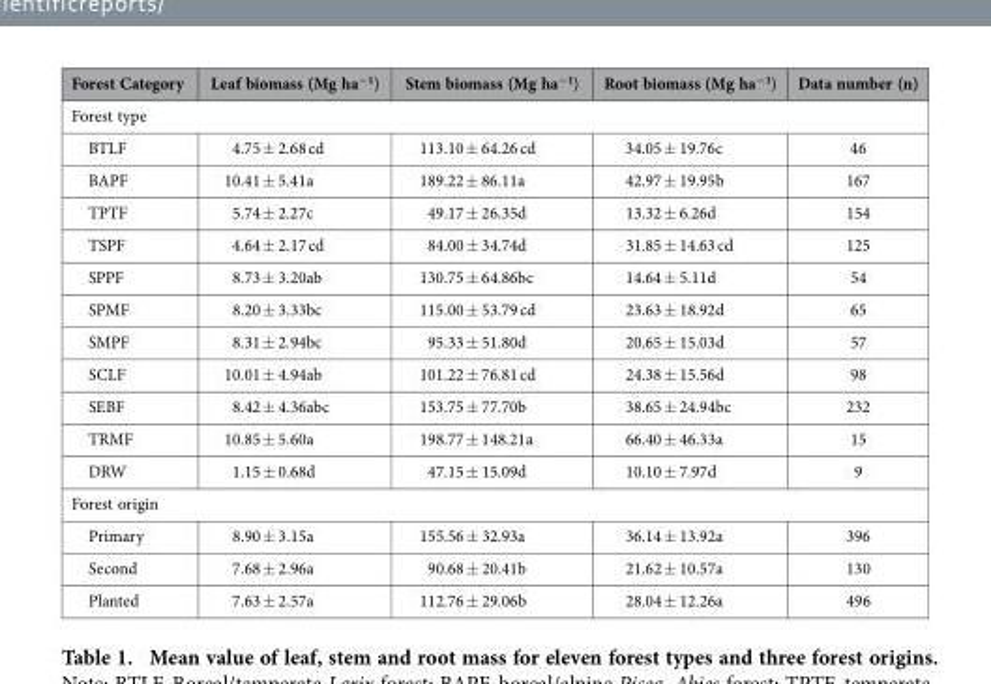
<table><thead><tr><td>Forest Category</td><td>Leaf biomass (Mg ha<sup>−1</sup>)</td><td>Stem biomass (Mg ha<sup>−1</sup>)</td><td>Root biomass (Mg ha<sup>−1</sup>)</td><td>Data number (n)</td></tr></thead><tbody><tr><td colspan="5">Forest type</td></tr><tr><td>BTLF</td><td>4.75 ± 2.68 cd</td><td>113.10 ± 64.26 cd</td><td>34.05 ± 19.76c</td><td>46</td></tr><tr><td>BAPF</td><td>10.41 ± 5.41a</td><td>189.22 ± 86.11a</td><td>42.97 ± 19.95b</td><td>167</td></tr><tr><td>TPTF</td><td>5.74 ± 2.27c</td><td>49.17 ± 26.35d</td><td>13.32 ± 6.26d</td><td>154</td></tr><tr><td>TSPF</td><td>4.64 ± 2.17 cd</td><td>84.00 ± 34.74d</td><td>31.85 ± 14.63 cd</td><td>125</td></tr><tr><td>SPPF</td><td>8.73 ± 3.20ab</td><td>130.75 ± 64.86bc</td><td>14.64 ± 5.11d</td><td>54</td></tr><tr><td>SPMF</td><td>8.20 ± 3.33bc</td><td>115.00 ± 53.79 cd</td><td>23.63 ± 18.92d</td><td>65</td></tr><tr><td>SMPF</td><td>8.31 ± 2.94bc</td><td>95.33 ± 51.80d</td><td>20.65 ± 15.03d</td><td>57</td></tr><tr><td>SCLF</td><td>10.01 ± 4.94ab</td><td>101.22 ± 76.81 cd</td><td>24.38 ± 15.56d</td><td>98</td></tr><tr><td>SEBF</td><td>8.42 ± 4.36abc</td><td>153.75 ± 77.70b</td><td>38.65 ± 24.94bc</td><td>232</td></tr><tr><td>TRMF</td><td>10.85 ± 5.60a</td><td>198.77 ± 148.21a</td><td>66.40 ± 46.33a</td><td>15</td></tr><tr><td>DRW</td><td>1.15 ± 0.68d</td><td>47.15 ± 15.09d</td><td>10.10 ± 7.97d</td><td>9</td></tr><tr><td colspan="5">Forest origin</td></tr><tr><td>Primary</td><td>8.90 ± 3.15a</td><td>155.56 ± 32.93a</td><td>36.14 ± 13.92a</td><td>396</td></tr><tr><td>Second</td><td>7.68 ± 2.96a</td><td>90.68 ± 20.41b</td><td>21.62 ± 10.57a</td><td>130</td></tr><tr><td>Planted</td><td>7.63 ± 2.57a</td><td>112.76 ± 29.06b</td><td>28.04 ± 12.26a</td><td>496</td></tr></tbody></table>